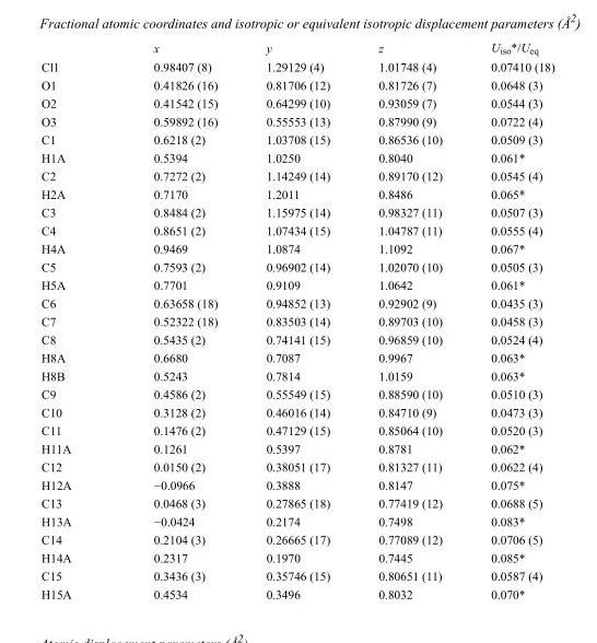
<table><thead><tr><td></td><td>x</td><td>y</td><td>z</td><td>U<sub>iso</sub>*/U<sub>eq</sub></td></tr></thead><tbody><tr><td>Cl1</td><td>0.98407 (8)</td><td>1.29129 (4)</td><td>1.01748 (4)</td><td>0.07410 (18)</td></tr><tr><td>O1</td><td>0.41826 (16)</td><td>0.81706 (12)</td><td>0.81726 (7)</td><td>0.0648 (3)</td></tr><tr><td>O2</td><td>0.41542 (15)</td><td>0.64299 (10)</td><td>0.93059 (7)</td><td>0.0544 (3)</td></tr><tr><td>O3</td><td>0.59892 (16)</td><td>0.55553 (13)</td><td>0.87990 (9)</td><td>0.0722 (4)</td></tr><tr><td>C1</td><td>0.6218 (2)</td><td>1.03708 (15)</td><td>0.86536 (10)</td><td>0.0509 (3)</td></tr><tr><td>H1A</td><td>0.5394</td><td>1.0250</td><td>0.8040</td><td>0.061*</td></tr><tr><td>C2</td><td>0.7272 (2)</td><td>1.14249 (14)</td><td>0.89170 (12)</td><td>0.0545 (4)</td></tr><tr><td>H2A</td><td>0.7170</td><td>1.2011</td><td>0.8486</td><td>0.065*</td></tr><tr><td>C3</td><td>0.8484 (2)</td><td>1.15975 (14)</td><td>0.98327 (11)</td><td>0.0507 (3)</td></tr><tr><td>C4</td><td>0.8651 (2)</td><td>1.07434 (15)</td><td>1.04787 (11)</td><td>0.0555 (4)</td></tr><tr><td>H4A</td><td>0.9469</td><td>1.0874</td><td>1.1092</td><td>0.067*</td></tr><tr><td>C5</td><td>0.7593 (2)</td><td>0.96902 (14)</td><td>1.02070 (10)</td><td>0.0505 (3)</td></tr><tr><td>H5A</td><td>0.7701</td><td>0.9109</td><td>1.0642</td><td>0.061*</td></tr><tr><td>C6</td><td>0.63658 (18)</td><td>0.94852 (13)</td><td>0.92902 (9)</td><td>0.0435 (3)</td></tr><tr><td>C7</td><td>0.52322 (18)</td><td>0.83503 (14)</td><td>0.89703 (10)</td><td>0.0458 (3)</td></tr><tr><td>C8</td><td>0.5435 (2)</td><td>0.74141 (15)</td><td>0.96859 (10)</td><td>0.0524 (4)</td></tr><tr><td>H8A</td><td>0.6680</td><td>0.7087</td><td>0.9967</td><td>0.063*</td></tr><tr><td>H8B</td><td>0.5243</td><td>0.7814</td><td>1.0159</td><td>0.063*</td></tr><tr><td>C9</td><td>0.4586 (2)</td><td>0.55549 (15)</td><td>0.88590 (10)</td><td>0.0510 (3)</td></tr><tr><td>C10</td><td>0.3128 (2)</td><td>0.46016 (14)</td><td>0.84710 (9)</td><td>0.0473 (3)</td></tr><tr><td>C11</td><td>0.1476 (2)</td><td>0.47129 (15)</td><td>0.85064 (10)</td><td>0.0520 (3)</td></tr><tr><td>H11A</td><td>0.1261</td><td>0.5397</td><td>0.8781</td><td>0.062*</td></tr><tr><td>C12</td><td>0.0150 (2)</td><td>0.38051 (17)</td><td>0.81327 (11)</td><td>0.0622 (4)</td></tr><tr><td>H12A</td><td>−0.0966</td><td>0.3888</td><td>0.8147</td><td>0.075*</td></tr><tr><td>C13</td><td>0.0468 (3)</td><td>0.27865 (18)</td><td>0.77419 (12)</td><td>0.0688 (5)</td></tr><tr><td>H13A</td><td>−0.0424</td><td>0.2174</td><td>0.7498</td><td>0.083*</td></tr><tr><td>C14</td><td>0.2104 (3)</td><td>0.26665 (17)</td><td>0.77089 (12)</td><td>0.0706 (5)</td></tr><tr><td>H14A</td><td>0.2317</td><td>0.1970</td><td>0.7445</td><td>0.085*</td></tr><tr><td>C15</td><td>0.3436 (3)</td><td>0.35746 (15)</td><td>0.80651 (11)</td><td>0.0587 (4)</td></tr><tr><td>H15A</td><td>0.4534</td><td>0.3496</td><td>0.8032</td><td>0.070*</td></tr></tbody></table>